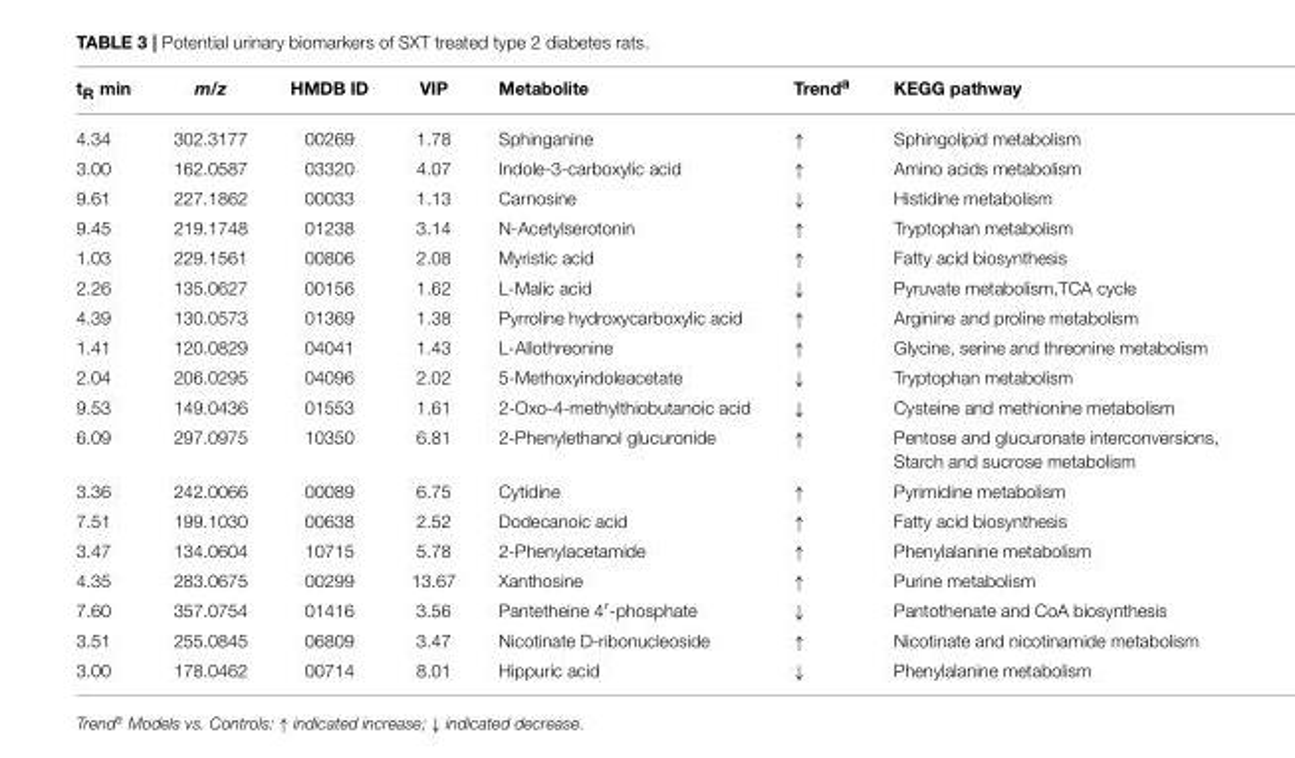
<table><thead><tr><td>t<sub>R</sub> min</td><td>m/z</td><td>HMDB ID</td><td>VIP</td><td>Metabolite</td><td>Trend<sup>a</sup></td><td>KEGG pathway</td></tr></thead><tbody><tr><td>4.34</td><td>302.3177</td><td>00269</td><td>1.78</td><td>Sphinganine</td><td>↑</td><td>Sphingolipid metabolism</td></tr><tr><td>3.00</td><td>162.0587</td><td>03320</td><td>4.07</td><td>Indole-3-carboxylic acid</td><td>↑</td><td>Amino acids metabolism</td></tr><tr><td>9.61</td><td>227.1862</td><td>00033</td><td>1.13</td><td>Carnosine</td><td>↓</td><td>Histidine metabolism</td></tr><tr><td>9.45</td><td>219.1748</td><td>01238</td><td>3.14</td><td>N-Acetylserotonin</td><td>↑</td><td>Tryptophan metabolism</td></tr><tr><td>1.03</td><td>229.1561</td><td>00806</td><td>2.08</td><td>Myristic acid</td><td>↑</td><td>Fatty acid biosynthesis</td></tr><tr><td>2.26</td><td>135.0627</td><td>00156</td><td>1.62</td><td>L-Malic acid</td><td>↓</td><td>Pyruvate metabolism,TCA cycle</td></tr><tr><td>4.39</td><td>130.0573</td><td>01369</td><td>1.38</td><td>Pyrroline hydroxycarboxylic acid</td><td>↑</td><td>Arginine and proline metabolism</td></tr><tr><td>1.41</td><td>120.0829</td><td>04041</td><td>1.43</td><td>L-Allothreonine</td><td>↑</td><td>Glycine, serine and threonine metabolism</td></tr><tr><td>2.04</td><td>206.0295</td><td>04096</td><td>2.02</td><td>5-Methoxyindoleacetate</td><td>↓</td><td>Tryptophan metabolism</td></tr><tr><td>9.53</td><td>149.0436</td><td>01553</td><td>1.61</td><td>2-Oxo-4-methylthiobutanoic acid</td><td>↓</td><td>Cysteine and methionine metabolism</td></tr><tr><td>6.09</td><td>297.0975</td><td>10350</td><td>6.81</td><td>2-Phenylethanol glucuronide</td><td>↑</td><td>Pentose and glucuronate interconversions, Starch and sucrose metabolism</td></tr><tr><td>3.36</td><td>242.0066</td><td>00089</td><td>6.75</td><td>Cytidine</td><td>↑</td><td>Pyrimidine metabolism</td></tr><tr><td>7.51</td><td>199.1030</td><td>00638</td><td>2.52</td><td>Dodecanoic acid</td><td>↑</td><td>Fatty acid biosynthesis</td></tr><tr><td>3.47</td><td>134.0604</td><td>10715</td><td>5.78</td><td>2-Phenylacetamide</td><td>↑</td><td>Phenylalanine metabolism</td></tr><tr><td>4.35</td><td>283.0675</td><td>00299</td><td>13.67</td><td>Xanthosine</td><td>↑</td><td>Purine metabolism</td></tr><tr><td>7.60</td><td>357.0754</td><td>01416</td><td>3.56</td><td>Pantetheine 4′-phosphate</td><td>↓</td><td>Pantothenate and CoA biosynthesis</td></tr><tr><td>3.51</td><td>255.0845</td><td>06809</td><td>3.47</td><td>Nicotinate D-ribonucleoside</td><td>↑</td><td>Nicotinate and nicotinamide metabolism</td></tr><tr><td>3.00</td><td>178.0462</td><td>00714</td><td>8.01</td><td>Hippuric acid</td><td>↓</td><td>Phenylalanine metabolism</td></tr></tbody></table>